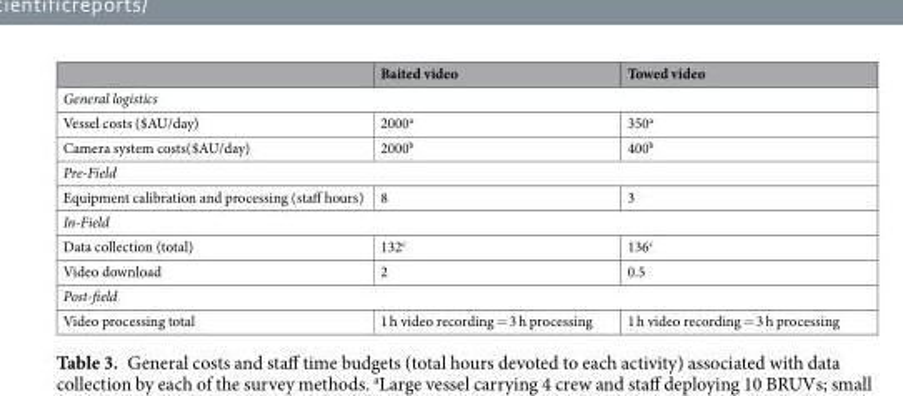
<table><thead><tr><td></td><td>Baited video</td><td>Towed video</td></tr></thead><tbody><tr><td colspan="3">General logistics</td></tr><tr><td>Vessel costs ($AU/day)</td><td>2000<sup>a</sup></td><td>350<sup>a</sup></td></tr><tr><td>Camera system costs($AU/day)</td><td>2000<sup>b</sup></td><td>400<sup>b</sup></td></tr><tr><td colspan="3">Pre-Field</td></tr><tr><td>Equipment calibration and processing (staff hours)</td><td>8</td><td>3</td></tr><tr><td colspan="3">In-Field</td></tr><tr><td>Data collection (total)</td><td>132<sup>c</sup></td><td>136<sup>c</sup></td></tr><tr><td>Video download</td><td>2</td><td>0.5</td></tr><tr><td colspan="3">Post-field</td></tr><tr><td>Video processing total</td><td>1 h video recording = 3 h processing</td><td>1 h video recording = 3 h processing</td></tr></tbody></table>